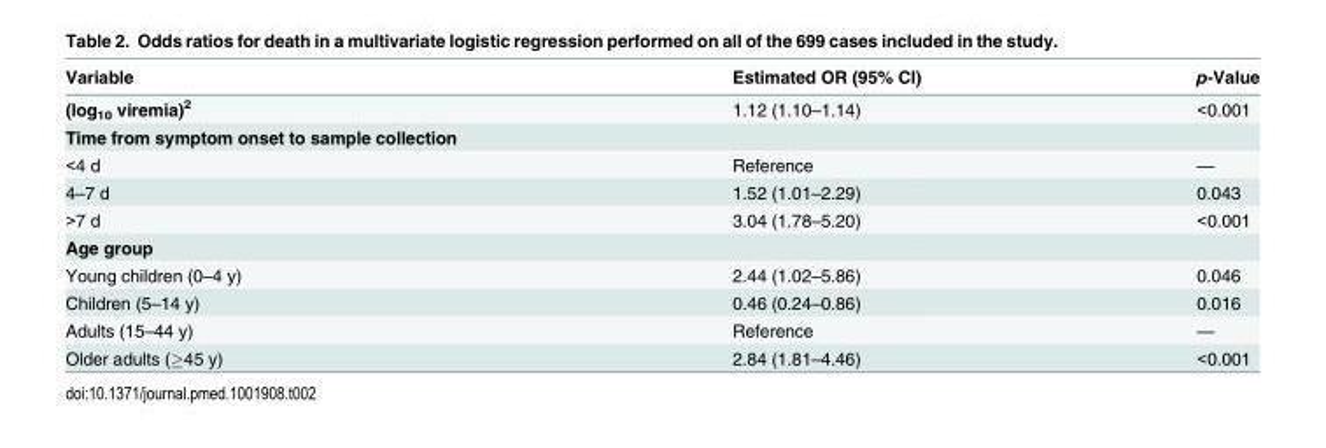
<table><thead><tr><td>Variable</td><td>Estimated OR (95% CI)</td><td>p-Value</td></tr></thead><tbody><tr><td>(log<sub>10</sub> viremia)<sup>2</sup></td><td>1.12 (1.10–1.14)</td><td>&lt;0.001</td></tr><tr><td colspan="3">Time from symptom onset to sample collection</td></tr><tr><td>&lt;4 d</td><td>Reference</td><td>—</td></tr><tr><td>4–7 d</td><td>1.52 (1.01–2.29)</td><td>0.043</td></tr><tr><td>&gt;7 d</td><td>3.04 (1.78–5.20)</td><td>&lt;0.001</td></tr><tr><td colspan="3">Age group</td></tr><tr><td>Young children (0–4 y)</td><td>2.44 (1.02–5.86)</td><td>0.046</td></tr><tr><td>Children (5–14 y)</td><td>0.46 (0.24–0.86)</td><td>0.016</td></tr><tr><td>Adults (15–44 y)</td><td>Reference</td><td>—</td></tr><tr><td>Older adults (≥45 y)</td><td>2.84 (1.81–4.46)</td><td>&lt;0.001</td></tr></tbody></table>